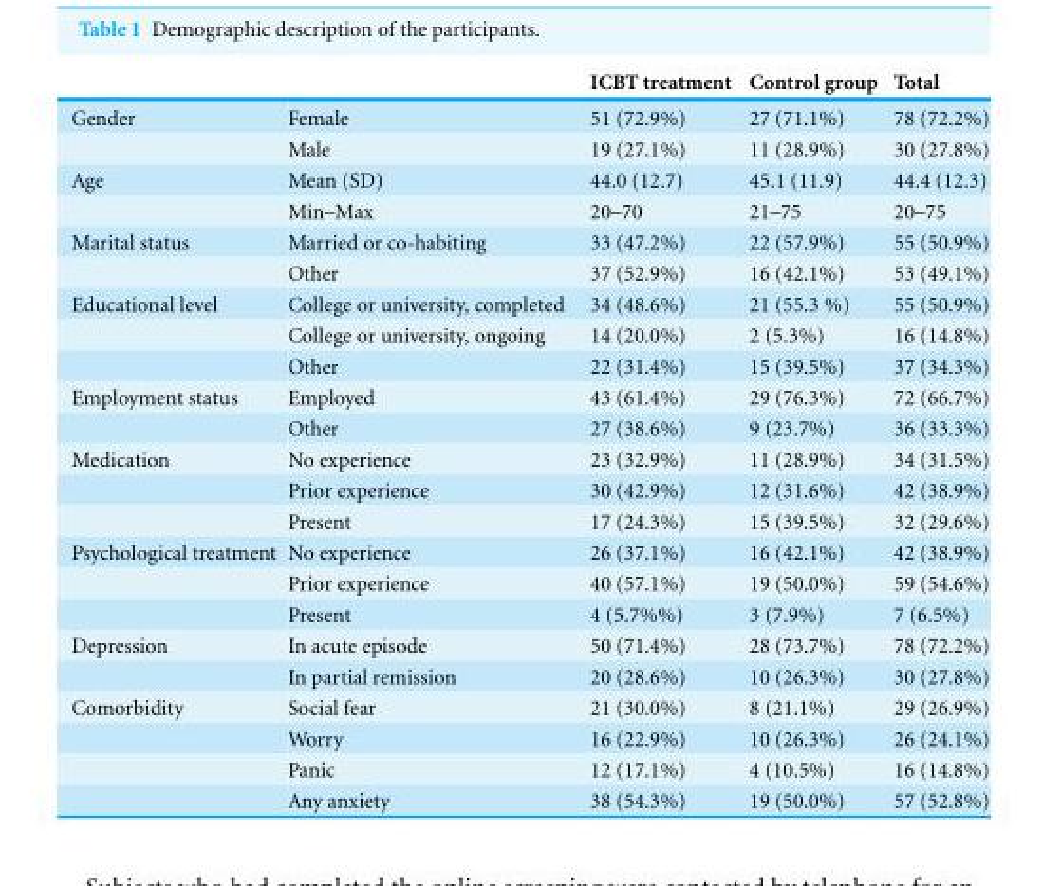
<table><thead><tr><td></td><td></td><td>ICBT treatment</td><td>Control group</td><td>Total</td></tr></thead><tbody><tr><td rowspan="2">Gender</td><td>Female</td><td>51 (72.9%)</td><td>27 (71.1%)</td><td>78 (72.2%)</td></tr><tr><td>Male</td><td>19 (27.1%)</td><td>11 (28.9%)</td><td>30 (27.8%)</td></tr><tr><td rowspan="2">Age</td><td>Mean (SD)</td><td>44.0 (12.7)</td><td>45.1 (11.9)</td><td>44.4 (12.3)</td></tr><tr><td>Min–Max</td><td>20–70</td><td>21–75</td><td>20–75</td></tr><tr><td rowspan="2">Marital status</td><td>Married or co-habiting</td><td>33 (47.2%)</td><td>22 (57.9%)</td><td>55 (50.9%)</td></tr><tr><td>Other</td><td>37 (52.9%)</td><td>16 (42.1%)</td><td>53 (49.1%)</td></tr><tr><td rowspan="3">Educational level</td><td>College or university, completed</td><td>34 (48.6%)</td><td>21 (55.3 %)</td><td>55 (50.9%)</td></tr><tr><td>College or university, ongoing</td><td>14 (20.0%)</td><td>2 (5.3%)</td><td>16 (14.8%)</td></tr><tr><td>Other</td><td>22 (31.4%)</td><td>15 (39.5%)</td><td>37 (34.3%)</td></tr><tr><td rowspan="2">Employment status</td><td>Employed</td><td>43 (61.4%)</td><td>29 (76.3%)</td><td>72 (66.7%)</td></tr><tr><td>Other</td><td>27 (38.6%)</td><td>9 (23.7%)</td><td>36 (33.3%)</td></tr><tr><td rowspan="3">Medication</td><td>No experience</td><td>23 (32.9%)</td><td>11 (28.9%)</td><td>34 (31.5%)</td></tr><tr><td>Prior experience</td><td>30 (42.9%)</td><td>12 (31.6%)</td><td>42 (38.9%)</td></tr><tr><td>Present</td><td>17 (24.3%)</td><td>15 (39.5%)</td><td>32 (29.6%)</td></tr><tr><td rowspan="3">Psychological treatment</td><td>No experience</td><td>26 (37.1%)</td><td>16 (42.1%)</td><td>42 (38.9%)</td></tr><tr><td>Prior experience</td><td>40 (57.1%)</td><td>19 (50.0%)</td><td>59 (54.6%)</td></tr><tr><td>Present</td><td>4 (5.7%%)</td><td>3 (7.9%)</td><td>7 (6.5%)</td></tr><tr><td rowspan="2">Depression</td><td>In acute episode</td><td>50 (71.4%)</td><td>28 (73.7%)</td><td>78 (72.2%)</td></tr><tr><td>In partial remission</td><td>20 (28.6%)</td><td>10 (26.3%)</td><td>30 (27.8%)</td></tr><tr><td rowspan="4">Comorbidity</td><td>Social fear</td><td>21 (30.0%)</td><td>8 (21.1%)</td><td>29 (26.9%)</td></tr><tr><td>Worry</td><td>16 (22.9%)</td><td>10 (26.3%)</td><td>26 (24.1%)</td></tr><tr><td>Panic</td><td>12 (17.1%)</td><td>4 (10.5%)</td><td>16 (14.8%)</td></tr><tr><td>Any anxiety</td><td>38 (54.3%)</td><td>19 (50.0%)</td><td>57 (52.8%)</td></tr></tbody></table>